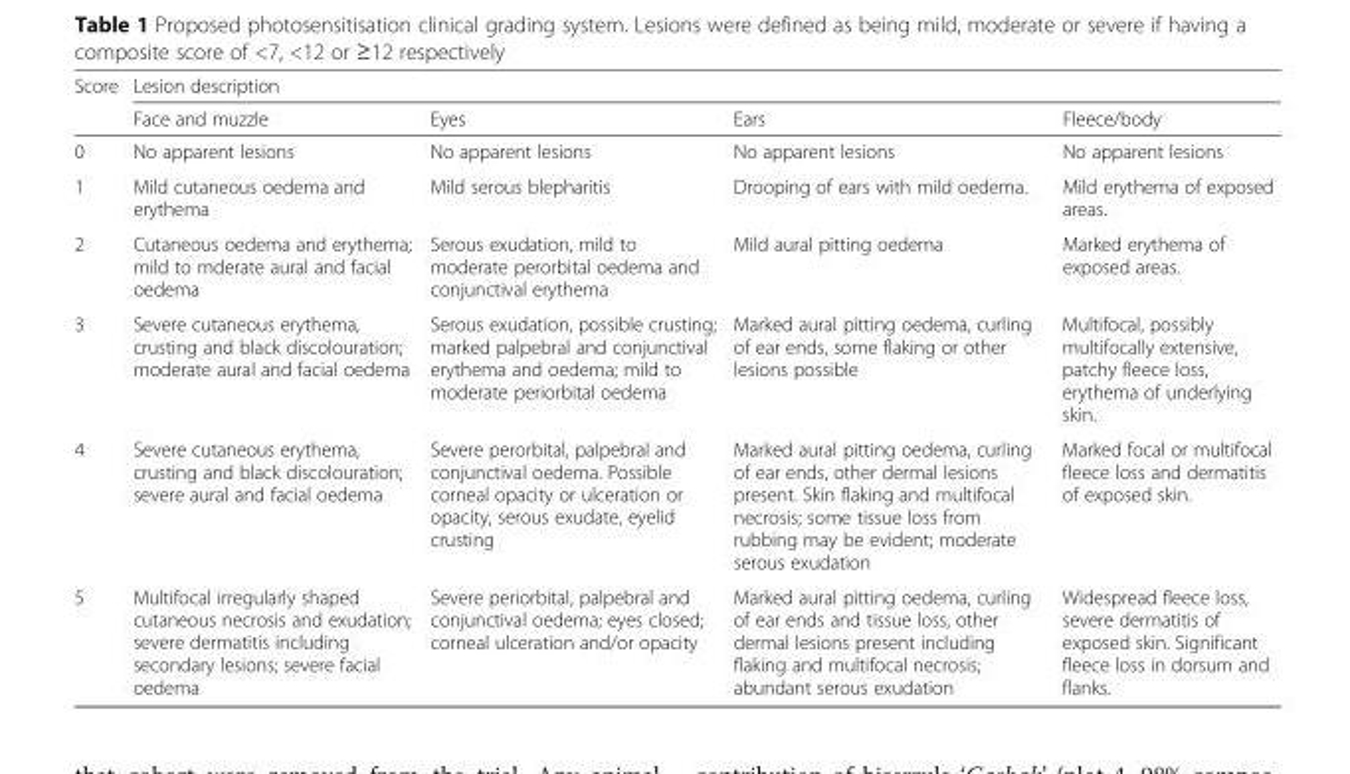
<table><thead><tr><td rowspan="2">Score</td><td colspan="4">Lesion description</td></tr><tr><td>Face and muzzle</td><td>Eyes</td><td>Ears</td><td>Fleece/body</td></tr></thead><tbody><tr><td>0</td><td>No apparent lesions</td><td>No apparent lesions</td><td>No apparent lesions</td><td>No apparent lesions</td></tr><tr><td>1</td><td>Mild cutaneous oedema and erythema</td><td>Mild serous blepharitis</td><td>Drooping of ears with mild oedema.</td><td>Mild erythema of exposed areas.</td></tr><tr><td>2</td><td>Cutaneous oedema and erythema; mild to mderate aural and facial oedema</td><td>Serous exudation, mild to moderate perorbital oedema and conjunctival erythema</td><td>Mild aural pitting oedema</td><td>Marked erythema of exposed areas.</td></tr><tr><td>3</td><td>Severe cutaneous erythema, crusting and black discolouration; moderate aural and facial oedema</td><td>Serous exudation, possible crusting; marked palpebral and conjunctival erythema and oedema; mild to moderate periorbital oedema</td><td>Marked aural pitting oedema, curling of ear ends, some flaking or other lesions possible</td><td>Multifocal, possibly multifocally extensive, patchy fleece loss, erythema of underlying skin.</td></tr><tr><td>4</td><td>Severe cutaneous erythema, crusting and black discolouration; severe aural and facial oedema</td><td>Severe perorbital, palpebral and conjunctival oedema. Possible corneal opacity or ulceration or opacity, serous exudate, eyelid crusting</td><td>Marked aural pitting oedema, curling of ear ends, other dermal lesions present. Skin flaking and multifocal necrosis; some tissue loss from rubbing may be evident; moderate serous exudation</td><td>Marked focal or multifocal fleece loss and dermatitis of exposed skin.</td></tr><tr><td>5</td><td>Multifocal irregularly shaped cutaneous necrosis and exudation; severe dermatitis including secondary lesions; severe facial oedema</td><td>Severe periorbital, palpebral and conjunctival oedema; eyes closed; corneal ulceration and/or opacity</td><td>Marked aural pitting oedema, curling of ear ends and tissue loss, other dermal lesions present including flaking and multifocal necrosis; abundant serous exudation</td><td>Widespread fleece loss, severe dermatitis of exposed skin. Significant fleece loss in dorsum and flanks.</td></tr></tbody></table>